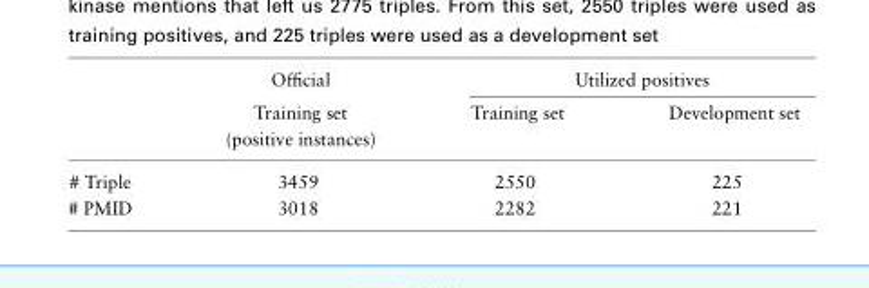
<table><thead><tr><td rowspan="2"></td><td rowspan="2">Official Training set (positive instances)</td><td colspan="2">Utilized positives</td></tr><tr><td>Training set</td><td>Development set</td></tr></thead><tbody><tr><td># Triple</td><td>3459</td><td>2550</td><td>225</td></tr><tr><td># PMID</td><td>3018</td><td>2282</td><td>221</td></tr></tbody></table>